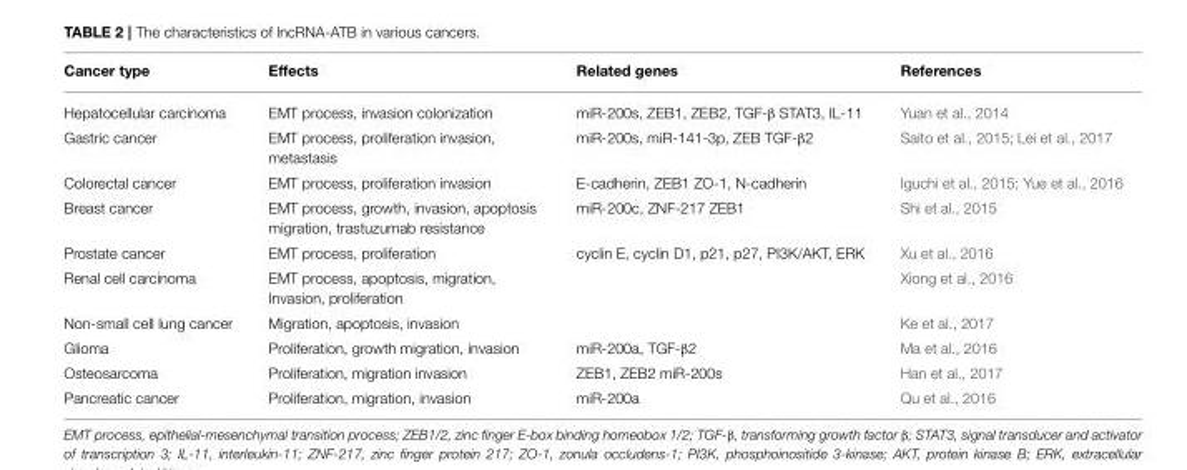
<table><thead><tr><td>Cancer type</td><td>Effects</td><td>Related genes</td><td>References</td></tr></thead><tbody><tr><td>Hepatocellular carcinoma</td><td>EMT process, invasion colonization</td><td>miR-200s, ZEB1, ZEB2, TGF-β STAT3, IL-11</td><td>Yuan et al., 2014</td></tr><tr><td>Gastric cancer</td><td>EMT process, proliferation invasion, metastasis</td><td>miR-200s, miR-141-3p, ZEB TGF-β2</td><td>Saito et al., 2015; Lei et al., 2017</td></tr><tr><td>Colorectal cancer</td><td>EMT process, proliferation invasion</td><td>E-cadherin, ZEB1 ZO-1, N-cadherin</td><td>Iguchi et al., 2015; Yue et al., 2016</td></tr><tr><td>Breast cancer</td><td>EMT process, growth, invasion, apoptosis migration, trastuzumab resistance</td><td>miR-200c, ZNF-217 ZEB1</td><td>Shi et al., 2015</td></tr><tr><td>Prostate cancer</td><td>EMT process, proliferation</td><td>cyclin E, cyclin D1, p21, p27, PI3K/AKT, ERK</td><td>Xu et al., 2016</td></tr><tr><td>Renal cell carcinoma</td><td>EMT process, apoptosis, migration, Invasion, proliferation</td><td></td><td>Xiong et al., 2016</td></tr><tr><td>Non-small cell lung cancer</td><td>Migration, apoptosis, invasion</td><td></td><td>Ke et al., 2017</td></tr><tr><td>Glioma</td><td>Proliferation, growth migration, invasion</td><td>miR-200a, TGF-β2</td><td>Ma et al., 2016</td></tr><tr><td>Osteosarcoma</td><td>Proliferation, migration invasion</td><td>ZEB1, ZEB2 miR-200s</td><td>Han et al., 2017</td></tr><tr><td>Pancreatic cancer</td><td>Proliferation, migration, invasion</td><td>miR-200a</td><td>Qu et al., 2016</td></tr></tbody></table>